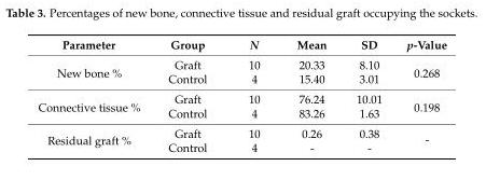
<table><thead><tr><td>Parameter</td><td>Group</td><td>N</td><td>Mean</td><td>SD</td><td>p-Value</td></tr></thead><tbody><tr><td rowspan="2">New bone %</td><td>Graft</td><td>10</td><td>20.33</td><td>8.10</td><td rowspan="2">0.268</td></tr><tr><td>Control</td><td>4</td><td>15.40</td><td>3.01</td></tr><tr><td rowspan="2">Connective tissue %</td><td>Graft</td><td>10</td><td>76.24</td><td>10.01</td><td rowspan="2">0.198</td></tr><tr><td>Control</td><td>4</td><td>83.26</td><td>1.63</td></tr><tr><td rowspan="2">Residual graft %</td><td>Graft</td><td>10</td><td>0.26</td><td>0.38</td><td rowspan="2">-</td></tr><tr><td>Control</td><td>4</td><td>-</td><td>-</td></tr></tbody></table>